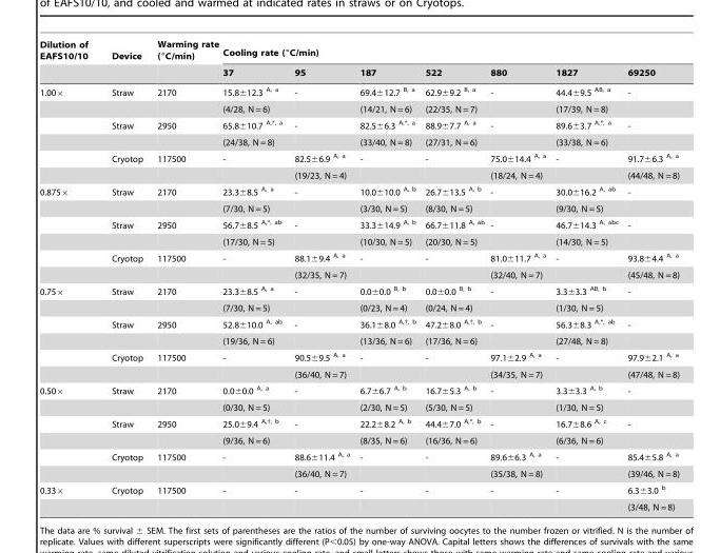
<table><thead><tr><td rowspan="2">Dilution of EAFS10/10</td><td rowspan="2">Device</td><td rowspan="2">Warming rate (°C/min)</td><td colspan="7">Cooling rate (°C/min)</td></tr><tr><td>37</td><td>95</td><td>187</td><td>522</td><td>880</td><td>1827</td><td>69250</td></tr></thead><tbody><tr><td rowspan="6">1.00×</td><td>Straw</td><td>2170</td><td>15.8±12.3 <sup>A, a</sup></td><td>-</td><td>69.4±12.7 <sup>B, a</sup></td><td>62.9±9.2 <sup>B, a</sup></td><td>-</td><td>44.4±9.5 <sup>AB, a</sup></td><td>-</td></tr><tr><td></td><td></td><td>(4/28, N = 6)</td><td></td><td>(14/21, N = 6)</td><td>(22/35, N = 7)</td><td></td><td>(17/39, N = 8)</td><td></td></tr><tr><td>Straw</td><td>2950</td><td>65.8±10.7 <sup>A,</sup>*<sup>, a</sup></td><td>-</td><td>82.5±6.3 <sup>A,</sup>*<sup>, a</sup></td><td>88.9±7.7 <sup>A, a</sup></td><td>-</td><td>89.6±3.7 <sup>A,</sup>*<sup>, a</sup></td><td>-</td></tr><tr><td></td><td></td><td>(24/38, N = 8)</td><td></td><td>(33/40, N = 8)</td><td>(27/31, N = 6)</td><td></td><td>(33/38, N = 6)</td><td></td></tr><tr><td>Cryotop</td><td>117500</td><td>-</td><td>82.5±6.9 <sup>A, a</sup></td><td>-</td><td>-</td><td>75.0±14.4 <sup>A, a</sup></td><td>-</td><td>91.7±6.3 <sup>A, a</sup></td></tr><tr><td></td><td></td><td></td><td>(19/23, N = 4)</td><td></td><td></td><td>(18/24, N = 4)</td><td></td><td>(44/48, N = 8)</td></tr><tr><td rowspan="6">0.875×</td><td>Straw</td><td>2170</td><td>23.3±8.5 <sup>A, a</sup></td><td>-</td><td>10.0±10.0 <sup>A, b</sup></td><td>26.7±13.5 <sup>A, b</sup></td><td>-</td><td>30.0±16.2 <sup>A, ab</sup></td><td>-</td></tr><tr><td></td><td></td><td>(7/30, N = 5)</td><td></td><td>(3/30, N = 5)</td><td>(8/30, N = 5)</td><td></td><td>(9/30, N = 5)</td><td></td></tr><tr><td>Straw</td><td>2950</td><td>56.7±8.5 <sup>A,</sup>*<sup>, ab</sup></td><td>-</td><td>33.3±14.9 <sup>A, b</sup></td><td>66.7±11.8 <sup>A, ab</sup></td><td>-</td><td>46.7±14.3 <sup>A, abc</sup></td><td>-</td></tr><tr><td></td><td></td><td>(17/30, N = 5)</td><td></td><td>(10/30, N = 5)</td><td>(20/30, N = 5)</td><td></td><td>(14/30, N = 5)</td><td></td></tr><tr><td>Cryotop</td><td>117500</td><td>-</td><td>88.1±9.4 <sup>A, a</sup></td><td>-</td><td>-</td><td>81.0±11.7 <sup>A, a</sup></td><td>-</td><td>93.8±4.4 <sup>A, a</sup></td></tr><tr><td></td><td></td><td></td><td>(32/35, N = 7)</td><td></td><td></td><td>(32/40, N = 7)</td><td></td><td>(45/48, N = 8)</td></tr><tr><td rowspan="6">0.75×</td><td>Straw</td><td>2170</td><td>23.3±8.5 <sup>A, a</sup></td><td>-</td><td>0.0±0.0 <sup>B, b</sup></td><td>0.0±0.0 <sup>B, b</sup></td><td>-</td><td>3.3±3.3 <sup>AB, b</sup></td><td>-</td></tr><tr><td></td><td></td><td>(7/30, N = 5)</td><td></td><td>(0/23, N = 4)</td><td>(0/24, N = 4)</td><td></td><td>(1/30, N = 5)</td><td></td></tr><tr><td>Straw</td><td>2950</td><td>52.8±10.0 <sup>A, ab</sup></td><td>-</td><td>36.1±8.0 <sup>A,</sup>†<sup>, b</sup></td><td>47.2±8.0 <sup>A,</sup>†<sup>, b</sup></td><td>-</td><td>56.3±8.3 <sup>A,</sup>*<sup>, ab</sup></td><td>-</td></tr><tr><td></td><td></td><td>(19/36, N = 6)</td><td></td><td>(13/36, N = 6)</td><td>(17/36, N = 6)</td><td></td><td>(27/48, N = 8)</td><td></td></tr><tr><td>Cryotop</td><td>117500</td><td>-</td><td>90.5±9.5 <sup>A, a</sup></td><td>-</td><td>-</td><td>97.1±2.9 <sup>A, a</sup></td><td>-</td><td>97.9±2.1 <sup>A, a</sup></td></tr><tr><td></td><td></td><td></td><td>(36/40, N = 7)</td><td></td><td></td><td>(34/35, N = 7)</td><td></td><td>(47/48, N = 8)</td></tr><tr><td rowspan="6">0.50×</td><td>Straw</td><td>2170</td><td>0.0±0.0 <sup>A, a</sup></td><td>-</td><td>6.7±6.7 <sup>A, b</sup></td><td>16.7±5.3 <sup>A, b</sup></td><td>-</td><td>3.3±3.3 <sup>A, b</sup></td><td>-</td></tr><tr><td></td><td></td><td>(0/30, N = 5)</td><td></td><td>(2/30, N = 5)</td><td>(5/30, N = 5)</td><td></td><td>(1/30, N = 5)</td><td></td></tr><tr><td>Straw</td><td>2950</td><td>25.0±9.4 <sup>A,</sup>†<sup>, b</sup></td><td>-</td><td>22.2±8.2 <sup>A, b</sup></td><td>44.4±7.0 <sup>A,</sup>*<sup>, b</sup></td><td>-</td><td>16.7±8.6 <sup>A, c</sup></td><td>-</td></tr><tr><td></td><td></td><td>(9/36, N = 6)</td><td></td><td>(8/35, N = 6)</td><td>(16/36, N = 6)</td><td></td><td>(6/36, N = 6)</td><td></td></tr><tr><td>Cryotop</td><td>117500</td><td>-</td><td>88.6±11.4 <sup>A, a</sup></td><td>-</td><td>-</td><td>89.6±6.3 <sup>A, a</sup></td><td>-</td><td>85.4±5.8 <sup>A, a</sup></td></tr><tr><td></td><td></td><td></td><td>(36/40, N = 7)</td><td></td><td></td><td>(35/38, N = 8)</td><td></td><td>(39/46, N = 8)</td></tr><tr><td rowspan="2">0.33×</td><td>Cryotop</td><td>117500</td><td>-</td><td>-</td><td>-</td><td>-</td><td>-</td><td>-</td><td>6.3±3.0 <sup>b</sup></td></tr><tr><td></td><td></td><td></td><td></td><td></td><td></td><td></td><td></td><td>(3/48, N = 8)</td></tr></tbody></table>